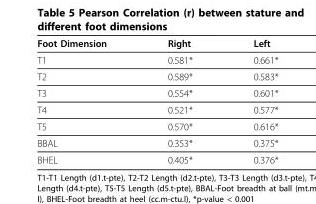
<table><thead><tr><td>Foot Dimension</td><td>Right</td><td>Left</td></tr></thead><tbody><tr><td>T1</td><td>0.581*</td><td>0.661*</td></tr><tr><td>T2</td><td>0.589*</td><td>0.583*</td></tr><tr><td>T3</td><td>0.554*</td><td>0.601*</td></tr><tr><td>T4</td><td>0.521*</td><td>0.577*</td></tr><tr><td>T5</td><td>0.570*</td><td>0.616*</td></tr><tr><td>BBAL</td><td>0.353*</td><td>0.375*</td></tr><tr><td>BHEL</td><td>0.405*</td><td>0.376*</td></tr></tbody></table>